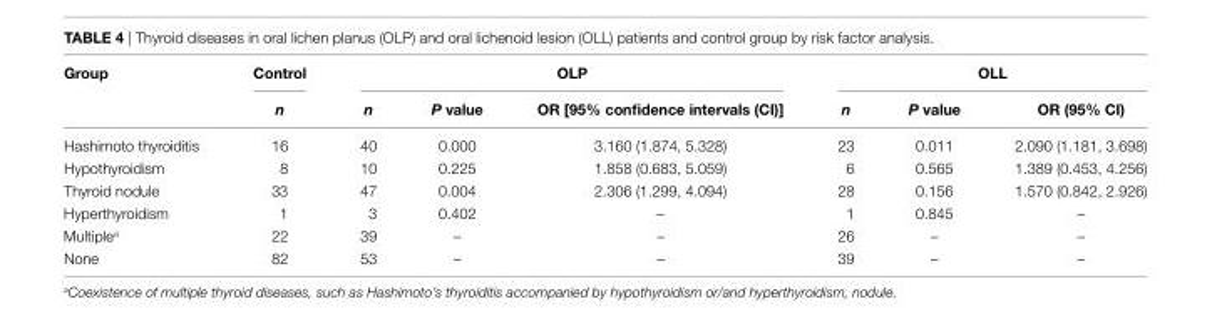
<table><thead><tr><td rowspan="2">group</td><td rowspan="2">control n</td><td colspan="3">OlP</td><td colspan="3">Oll</td></tr><tr><td>n</td><td>P value</td><td>Or [95% confidence intervals (ci)]</td><td>n</td><td>P value</td><td>Or (95% ci)</td></tr></thead><tbody><tr><td>Hashimoto thyroiditis</td><td>16</td><td>40</td><td>0.000</td><td>3.160 (1.874, 5.328)</td><td>23</td><td>0.011</td><td>2.090 (1.181, 3.698)</td></tr><tr><td>Hypothyroidism</td><td>8</td><td>10</td><td>0.225</td><td>1.858 (0.683, 5.059)</td><td>6</td><td>0.565</td><td>1.389 (0.453, 4.256)</td></tr><tr><td>Thyroid nodule</td><td>33</td><td>47</td><td>0.004</td><td>2.306 (1.299, 4.094)</td><td>28</td><td>0.156</td><td>1.570 (0.842, 2.926)</td></tr><tr><td>Hyperthyroidism</td><td>1</td><td>3</td><td>0.402</td><td>–</td><td>1</td><td>0.845</td><td>–</td></tr><tr><td>Multiple<sup>a</sup></td><td>22</td><td>39</td><td>–</td><td>–</td><td>26</td><td>–</td><td>–</td></tr><tr><td>None</td><td>82</td><td>53</td><td>–</td><td>–</td><td>39</td><td>–</td><td>–</td></tr></tbody></table>